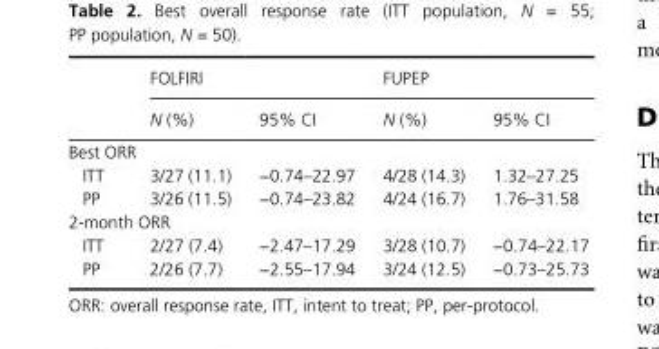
<table><thead><tr><td rowspan="2"></td><td colspan="2">FOLFIRI</td><td colspan="2">FUPEP</td></tr><tr><td>N (%)</td><td>95% CI</td><td>N (%)</td><td>95% CI</td></tr></thead><tbody><tr><td colspan="5">Best ORR</td></tr><tr><td>ITT</td><td>3/27 (11.1)</td><td>−0.74–22.97</td><td>4/28 (14.3)</td><td>1.32–27.25</td></tr><tr><td>PP</td><td>3/26 (11.5)</td><td>−0.74–23.82</td><td>4/24 (16.7)</td><td>1.76–31.58</td></tr><tr><td colspan="5">2- month ORR</td></tr><tr><td>ITT</td><td>2/27 (7.4)</td><td>−2.47–17.29</td><td>3/28 (10.7)</td><td>−0.74–22.17</td></tr><tr><td>PP</td><td>2/26 (7.7)</td><td>−2.55–17.94</td><td>3/24 (12.5)</td><td>−0.73–25.73</td></tr></tbody></table>